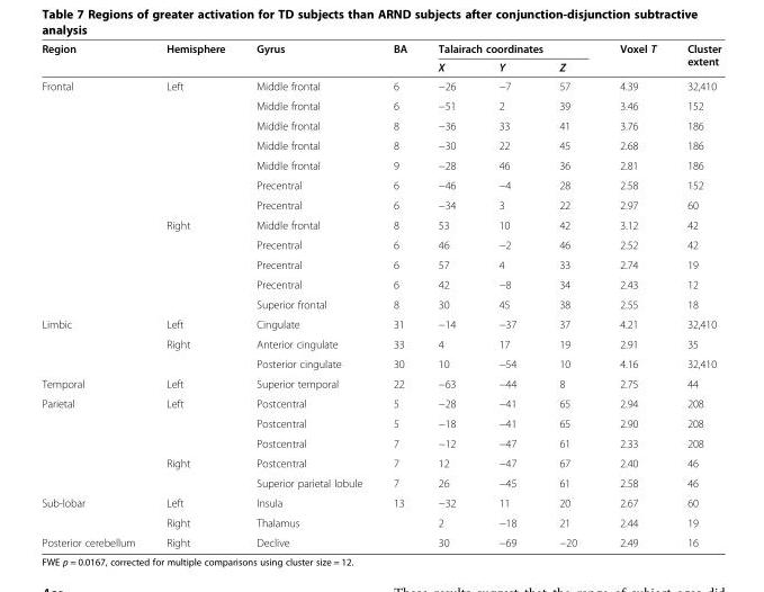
<table><thead><tr><td rowspan="2">Region</td><td rowspan="2">Hemisphere</td><td rowspan="2">Gyrus</td><td rowspan="2">BA</td><td colspan="3">Talairach coordinates</td><td rowspan="2">Voxel T</td><td rowspan="2">Cluster extent</td></tr><tr><td>X</td><td>Y</td><td>Z</td></tr></thead><tbody><tr><td rowspan="12">Frontal</td><td rowspan="7">Left</td><td>Middle frontal</td><td>6</td><td>−26</td><td>−7</td><td>57</td><td>4.39</td><td>32,410</td></tr><tr><td>Middle frontal</td><td>6</td><td>−51</td><td>2</td><td>39</td><td>3.46</td><td>152</td></tr><tr><td>Middle frontal</td><td>8</td><td>−36</td><td>33</td><td>41</td><td>3.76</td><td>186</td></tr><tr><td>Middle frontal</td><td>8</td><td>−30</td><td>22</td><td>45</td><td>2.68</td><td>186</td></tr><tr><td>Middle frontal</td><td>9</td><td>−28</td><td>46</td><td>36</td><td>2.81</td><td>186</td></tr><tr><td>Precentral</td><td>6</td><td>−46</td><td>−4</td><td>28</td><td>2.58</td><td>152</td></tr><tr><td>Precentral</td><td>6</td><td>−34</td><td>3</td><td>22</td><td>2.97</td><td>60</td></tr><tr><td rowspan="5">Right</td><td>Middle frontal</td><td>8</td><td>53</td><td>10</td><td>42</td><td>3.12</td><td>42</td></tr><tr><td>Precentral</td><td>6</td><td>46</td><td>−2</td><td>46</td><td>2.52</td><td>42</td></tr><tr><td>Precentral</td><td>6</td><td>57</td><td>4</td><td>33</td><td>2.74</td><td>19</td></tr><tr><td>Precentral</td><td>6</td><td>42</td><td>−8</td><td>34</td><td>2.43</td><td>12</td></tr><tr><td>Superior frontal</td><td>8</td><td>30</td><td>45</td><td>38</td><td>2.55</td><td>18</td></tr><tr><td rowspan="3">Limbic</td><td>Left</td><td>Cingulate</td><td>31</td><td>−14</td><td>−37</td><td>37</td><td>4.21</td><td>32,410</td></tr><tr><td rowspan="2">Right</td><td>Anterior cingulate</td><td>33</td><td>4</td><td>17</td><td>19</td><td>2.91</td><td>35</td></tr><tr><td>Posterior cingulate</td><td>30</td><td>10</td><td>−54</td><td>10</td><td>4.16</td><td>32,410</td></tr><tr><td>Temporal</td><td>Left</td><td>Superior temporal</td><td>22</td><td>−63</td><td>−44</td><td>8</td><td>2.75</td><td>44</td></tr><tr><td rowspan="5">Parietal</td><td rowspan="3">Left</td><td>Postcentral</td><td>5</td><td>−28</td><td>−41</td><td>65</td><td>2.94</td><td>208</td></tr><tr><td>Postcentral</td><td>5</td><td>−18</td><td>−41</td><td>65</td><td>2.90</td><td>208</td></tr><tr><td>Postcentral</td><td>7</td><td>−12</td><td>−47</td><td>61</td><td>2.33</td><td>208</td></tr><tr><td rowspan="2">Right</td><td>Postcentral</td><td>7</td><td>12</td><td>−47</td><td>67</td><td>2.40</td><td>46</td></tr><tr><td>Superior parietal lobule</td><td>7</td><td>26</td><td>−45</td><td>61</td><td>2.58</td><td>46</td></tr><tr><td rowspan="2">Sub-lobar</td><td>Left</td><td>Insula</td><td>13</td><td>−32</td><td>11</td><td>20</td><td>2.67</td><td>60</td></tr><tr><td>Right</td><td>Thalamus</td><td></td><td>2</td><td>−18</td><td>21</td><td>2.44</td><td>19</td></tr><tr><td>Posterior cerebellum</td><td>Right</td><td>Declive</td><td></td><td>30</td><td>−69</td><td>−20</td><td>2.49</td><td>16</td></tr></tbody></table>